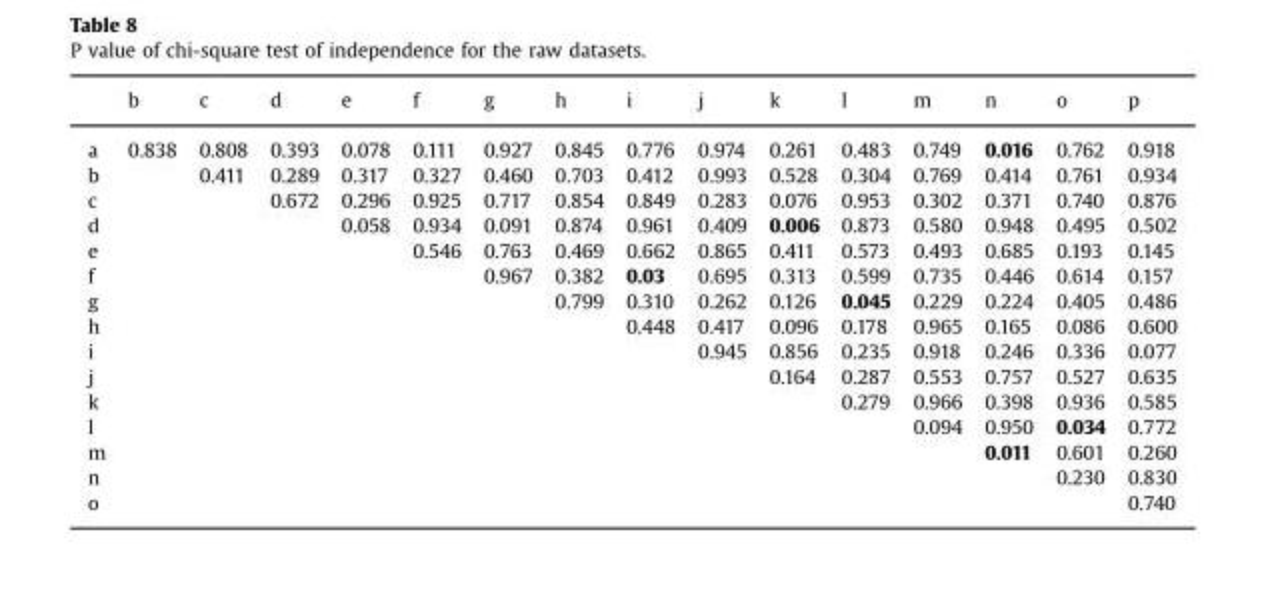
<table><thead><tr><td></td><td>b</td><td>c</td><td>d</td><td>e</td><td>f</td><td>g</td><td>h</td><td>i</td><td>j</td><td>k</td><td>l</td><td>m</td><td>n</td><td>o</td><td>p</td></tr></thead><tbody><tr><td>a</td><td>0.838</td><td>0.808</td><td>0.393</td><td>0.078</td><td>0.111</td><td>0.927</td><td>0.845</td><td>0.776</td><td>0.974</td><td>0.261</td><td>0.483</td><td>0.749</td><td>0.016</td><td>0.762</td><td>0.918</td></tr><tr><td>b</td><td></td><td>0.411</td><td>0.289</td><td>0.317</td><td>0.327</td><td>0.460</td><td>0.703</td><td>0.412</td><td>0.993</td><td>0.528</td><td>0.304</td><td>0.769</td><td>0.414</td><td>0.761</td><td>0.934</td></tr><tr><td>c</td><td></td><td></td><td>0.672</td><td>0.296</td><td>0.925</td><td>0.717</td><td>0.854</td><td>0.849</td><td>0.283</td><td>0.076</td><td>0.953</td><td>0.302</td><td>0.371</td><td>0.740</td><td>0.876</td></tr><tr><td>d</td><td></td><td></td><td></td><td>0.058</td><td>0.934</td><td>0.091</td><td>0.874</td><td>0.961</td><td>0.409</td><td>0.006</td><td>0.873</td><td>0.580</td><td>0.948</td><td>0.495</td><td>0.502</td></tr><tr><td>e</td><td></td><td></td><td></td><td></td><td>0.546</td><td>0.763</td><td>0.469</td><td>0.662</td><td>0.865</td><td>0.411</td><td>0.573</td><td>0.493</td><td>0.685</td><td>0.193</td><td>0.145</td></tr><tr><td>f</td><td></td><td></td><td></td><td></td><td></td><td>0.967</td><td>0.382</td><td>0.03</td><td>0.695</td><td>0.313</td><td>0.599</td><td>0.735</td><td>0.446</td><td>0.614</td><td>0.157</td></tr><tr><td>g</td><td></td><td></td><td></td><td></td><td></td><td></td><td>0.799</td><td>0.310</td><td>0.262</td><td>0.126</td><td>0.045</td><td>0.229</td><td>0.224</td><td>0.405</td><td>0.486</td></tr><tr><td>h</td><td></td><td></td><td></td><td></td><td></td><td></td><td></td><td>0.448</td><td>0.417</td><td>0.096</td><td>0.178</td><td>0.965</td><td>0.165</td><td>0.086</td><td>0.600</td></tr><tr><td>i</td><td></td><td></td><td></td><td></td><td></td><td></td><td></td><td></td><td>0.945</td><td>0.856</td><td>0.235</td><td>0.918</td><td>0.246</td><td>0.336</td><td>0.077</td></tr><tr><td>j</td><td></td><td></td><td></td><td></td><td></td><td></td><td></td><td></td><td></td><td>0.164</td><td>0.287</td><td>0.553</td><td>0.757</td><td>0.527</td><td>0.635</td></tr><tr><td>k</td><td></td><td></td><td></td><td></td><td></td><td></td><td></td><td></td><td></td><td></td><td>0.279</td><td>0.966</td><td>0.398</td><td>0.936</td><td>0.585</td></tr><tr><td>l</td><td></td><td></td><td></td><td></td><td></td><td></td><td></td><td></td><td></td><td></td><td></td><td>0.094</td><td>0.950</td><td>0.034</td><td>0.772</td></tr><tr><td>m</td><td></td><td></td><td></td><td></td><td></td><td></td><td></td><td></td><td></td><td></td><td></td><td></td><td>0.011</td><td>0.601</td><td>0.260</td></tr><tr><td>n</td><td></td><td></td><td></td><td></td><td></td><td></td><td></td><td></td><td></td><td></td><td></td><td></td><td></td><td>0.230</td><td>0.830</td></tr><tr><td>o</td><td></td><td></td><td></td><td></td><td></td><td></td><td></td><td></td><td></td><td></td><td></td><td></td><td></td><td></td><td>0.740</td></tr></tbody></table>